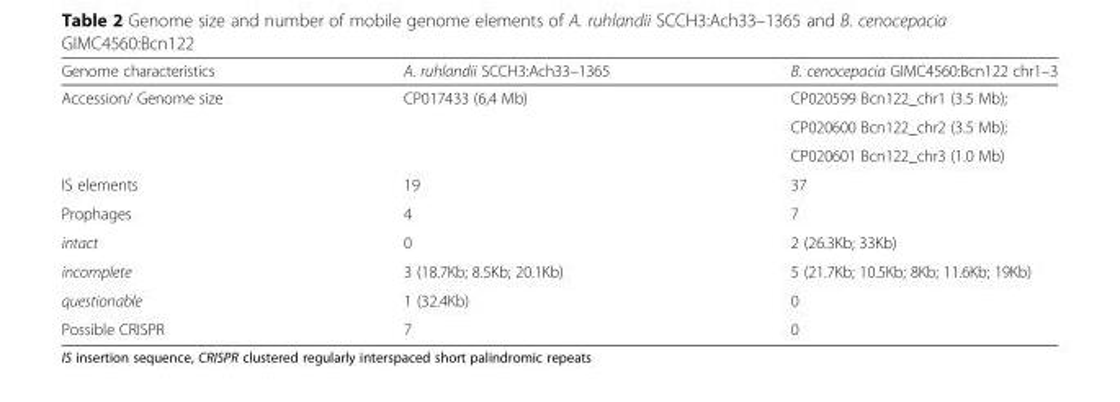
<table><thead><tr><td>Genome characteristics</td><td>A. ruhlandii SCCH3:Ach33–1365</td><td>B. cenocepacia GIMC4560:Bcn122 chr1–3</td></tr></thead><tbody><tr><td rowspan="3">Accession/ Genome size</td><td rowspan="3">CP017433 (6,4 Mb)</td><td>CP020599 Bcn122_chr1 (3.5 Mb);</td></tr><tr><td>CP020600 Bcn122_chr2 (3.5 Mb);</td></tr><tr><td>CP020601 Bcn122_chr3 (1.0 Mb)</td></tr><tr><td>IS elements</td><td>19</td><td>37</td></tr><tr><td>Prophages</td><td>4</td><td>7</td></tr><tr><td>intact</td><td>0</td><td>2 (26.3Kb; 33Kb)</td></tr><tr><td>incomplete</td><td>3 (18.7Kb; 8.5Kb; 20.1Kb)</td><td>5 (21.7Kb; 10.5Kb; 8Kb; 11.6Kb; 19Kb)</td></tr><tr><td>questionable</td><td>1 (32.4Kb)</td><td>0</td></tr><tr><td>Possible CRISPR</td><td>7</td><td>0</td></tr></tbody></table>